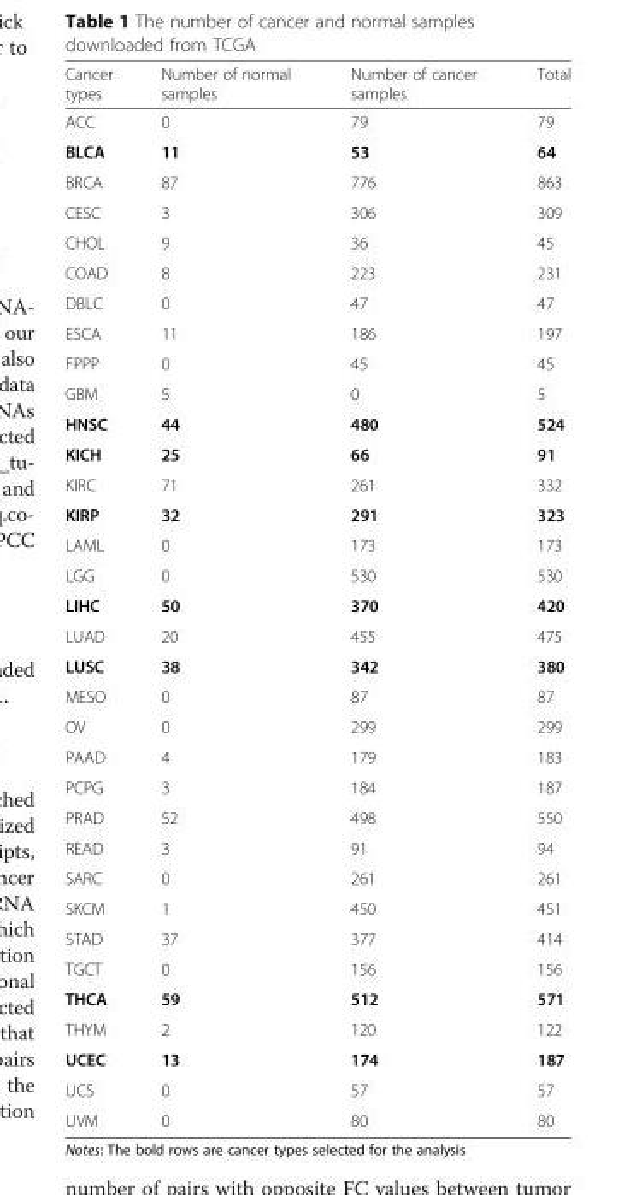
<table><thead><tr><td>Cancer types</td><td>Number of normal samples</td><td>Number of cancer samples</td><td>Total</td></tr></thead><tbody><tr><td>ACC</td><td>0</td><td>79</td><td>79</td></tr><tr><td>BLCA</td><td>11</td><td>53</td><td>64</td></tr><tr><td>BRCA</td><td>87</td><td>776</td><td>863</td></tr><tr><td>CESC</td><td>3</td><td>306</td><td>309</td></tr><tr><td>CHOL</td><td>9</td><td>36</td><td>45</td></tr><tr><td>COAD</td><td>8</td><td>223</td><td>231</td></tr><tr><td>DBLC</td><td>0</td><td>47</td><td>47</td></tr><tr><td>ESCA</td><td>11</td><td>186</td><td>197</td></tr><tr><td>FPPP</td><td>0</td><td>45</td><td>45</td></tr><tr><td>GBM</td><td>5</td><td>0</td><td>5</td></tr><tr><td>HNSC</td><td>44</td><td>480</td><td>524</td></tr><tr><td>KICH</td><td>25</td><td>66</td><td>91</td></tr><tr><td>KIRC</td><td>71</td><td>261</td><td>332</td></tr><tr><td>KIRP</td><td>32</td><td>291</td><td>323</td></tr><tr><td>LAML</td><td>0</td><td>173</td><td>173</td></tr><tr><td>LGG</td><td>0</td><td>530</td><td>530</td></tr><tr><td>LIHC</td><td>50</td><td>370</td><td>420</td></tr><tr><td>LUAD</td><td>20</td><td>455</td><td>475</td></tr><tr><td>LUSC</td><td>38</td><td>342</td><td>380</td></tr><tr><td>MESO</td><td>0</td><td>87</td><td>87</td></tr><tr><td>OV</td><td>0</td><td>299</td><td>299</td></tr><tr><td>PAAD</td><td>4</td><td>179</td><td>183</td></tr><tr><td>PCPG</td><td>3</td><td>184</td><td>187</td></tr><tr><td>PRAD</td><td>52</td><td>498</td><td>550</td></tr><tr><td>READ</td><td>3</td><td>91</td><td>94</td></tr><tr><td>SARC</td><td>0</td><td>261</td><td>261</td></tr><tr><td>SKCM</td><td>1</td><td>450</td><td>451</td></tr><tr><td>STAD</td><td>37</td><td>377</td><td>414</td></tr><tr><td>TGCT</td><td>0</td><td>156</td><td>156</td></tr><tr><td>THCA</td><td>59</td><td>512</td><td>571</td></tr><tr><td>THYM</td><td>2</td><td>120</td><td>122</td></tr><tr><td>UCEC</td><td>13</td><td>174</td><td>187</td></tr><tr><td>UCS</td><td>0</td><td>57</td><td>57</td></tr><tr><td>UVM</td><td>0</td><td>80</td><td>80</td></tr></tbody></table>